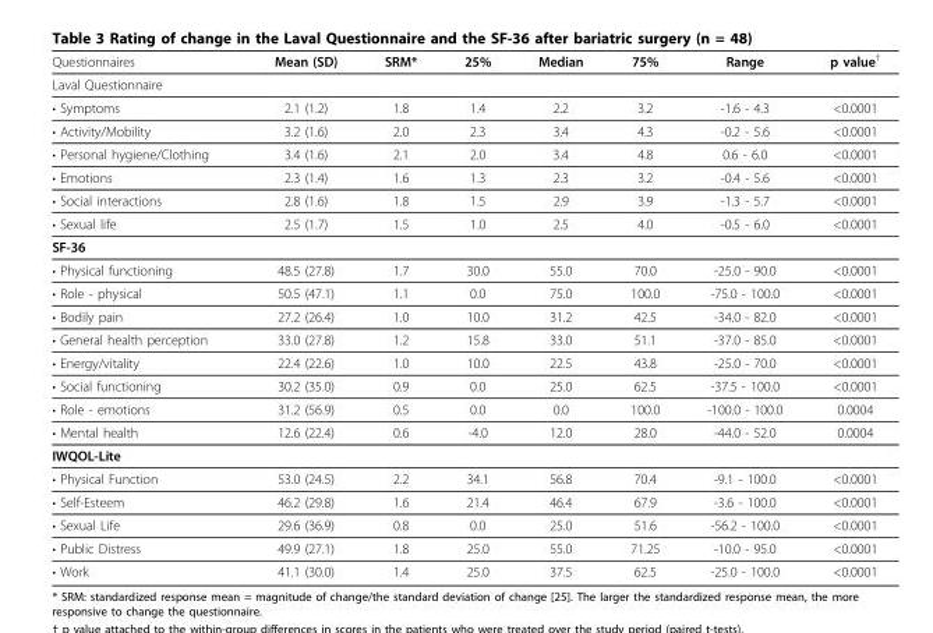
<table><thead><tr><td>Questionnaires</td><td>Mean (SD)</td><td>SRM*</td><td>25%</td><td>Median</td><td>75%</td><td>Range</td><td>p value<sup>†</sup></td></tr></thead><tbody><tr><td colspan="8">Laval Questionnaire</td></tr><tr><td>• Symptoms</td><td>2.1 (1.2)</td><td>1.8</td><td>1.4</td><td>2.2</td><td>3.2</td><td>-1.6 - 4.3</td><td>&lt;0.0001</td></tr><tr><td>• Activity/Mobility</td><td>3.2 (1.6)</td><td>2.0</td><td>2.3</td><td>3.4</td><td>4.3</td><td>-0.2 - 5.6</td><td>&lt;0.0001</td></tr><tr><td>• Personal hygiene/Clothing</td><td>3.4 (1.6)</td><td>2.1</td><td>2.0</td><td>3.4</td><td>4.8</td><td>0.6 - 6.0</td><td>&lt;0.0001</td></tr><tr><td>• Emotions</td><td>2.3 (1.4)</td><td>1.6</td><td>1.3</td><td>2.3</td><td>3.2</td><td>-0.4 - 5.6</td><td>&lt;0.0001</td></tr><tr><td>• Social interactions</td><td>2.8 (1.6)</td><td>1.8</td><td>1.5</td><td>2.9</td><td>3.9</td><td>-1.3 - 5.7</td><td>&lt;0.0001</td></tr><tr><td>• Sexual life</td><td>2.5 (1.7)</td><td>1.5</td><td>1.0</td><td>2.5</td><td>4.0</td><td>-0.5 - 6.0</td><td>&lt;0.0001</td></tr><tr><td colspan="8">SF-36</td></tr><tr><td>• Physical functioning</td><td>48.5 (27.8)</td><td>1.7</td><td>30.0</td><td>55.0</td><td>70.0</td><td>-25.0 - 90.0</td><td>&lt;0.0001</td></tr><tr><td>• Role - physical</td><td>50.5 (47.1)</td><td>1.1</td><td>0.0</td><td>75.0</td><td>100.0</td><td>-75.0 - 100.0</td><td>&lt;0.0001</td></tr><tr><td>• Bodily pain</td><td>27.2 (26.4)</td><td>1.0</td><td>10.0</td><td>31.2</td><td>42.5</td><td>-34.0 - 82.0</td><td>&lt;0.0001</td></tr><tr><td>• General health perception</td><td>33.0 (27.8)</td><td>1.2</td><td>15.8</td><td>33.0</td><td>51.1</td><td>-37.0 - 85.0</td><td>&lt;0.0001</td></tr><tr><td>• Energy/vitality</td><td>22.4 (22.6)</td><td>1.0</td><td>10.0</td><td>22.5</td><td>43.8</td><td>-25.0 - 70.0</td><td>&lt;0.0001</td></tr><tr><td>• Social functioning</td><td>30.2 (35.0)</td><td>0.9</td><td>0.0</td><td>25.0</td><td>62.5</td><td>-37.5 - 100.0</td><td>&lt;0.0001</td></tr><tr><td>• Role - emotions</td><td>31.2 (56.9)</td><td>0.5</td><td>0.0</td><td>0.0</td><td>100.0</td><td>-100.0 - 100.0</td><td>0.0004</td></tr><tr><td>• Mental health</td><td>12.6 (22.4)</td><td>0.6</td><td>-4.0</td><td>12.0</td><td>28.0</td><td>-44.0 - 52.0</td><td>0.0004</td></tr><tr><td colspan="8">IWQOL-Lite</td></tr><tr><td>• Physical Function</td><td>53.0 (24.5)</td><td>2.2</td><td>34.1</td><td>56.8</td><td>70.4</td><td>-9.1 - 100.0</td><td>&lt;0.0001</td></tr><tr><td>• Self-Esteem</td><td>46.2 (29.8)</td><td>1.6</td><td>21.4</td><td>46.4</td><td>67.9</td><td>-3.6 - 100.0</td><td>&lt;0.0001</td></tr><tr><td>• Sexual Life</td><td>29.6 (36.9)</td><td>0.8</td><td>0.0</td><td>25.0</td><td>51.6</td><td>-56.2 - 100.0</td><td>&lt;0.0001</td></tr><tr><td>• Public Distress</td><td>49.9 (27.1)</td><td>1.8</td><td>25.0</td><td>55.0</td><td>71.25</td><td>-10.0 - 95.0</td><td>&lt;0.0001</td></tr><tr><td>• Work</td><td>41.1 (30.0)</td><td>1.4</td><td>25.0</td><td>37.5</td><td>62.5</td><td>-25.0 - 100.0</td><td>&lt;0.0001</td></tr></tbody></table>